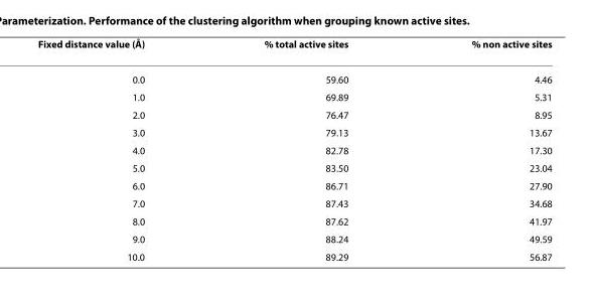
<table><thead><tr><td>Fixed distance value (Å)</td><td>% total active sites</td><td>% non active sites</td></tr></thead><tbody><tr><td>0.0</td><td>59.60</td><td>4.46</td></tr><tr><td>1.0</td><td>69.89</td><td>5.31</td></tr><tr><td>2.0</td><td>76.47</td><td>8.95</td></tr><tr><td>3.0</td><td>79.13</td><td>13.67</td></tr><tr><td>4.0</td><td>82.78</td><td>17.30</td></tr><tr><td>5.0</td><td>83.50</td><td>23.04</td></tr><tr><td>6.0</td><td>86.71</td><td>27.90</td></tr><tr><td>7.0</td><td>87.43</td><td>34.68</td></tr><tr><td>8.0</td><td>87.62</td><td>41.97</td></tr><tr><td>9.0</td><td>88.24</td><td>49.59</td></tr><tr><td>10.0</td><td>89.29</td><td>56.87</td></tr></tbody></table>